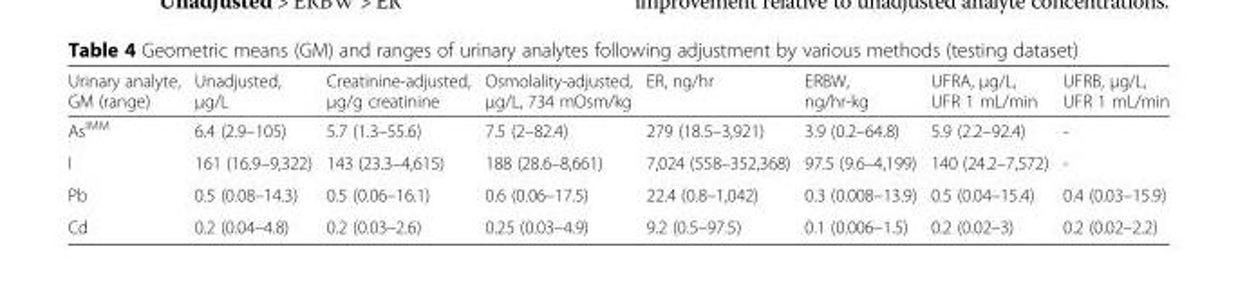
<table><thead><tr><td>Urinary analyte, GM (range)</td><td>Unadjusted, μg/L</td><td>Creatinine-adjusted, μg/g creatinine</td><td>Osmolality-adjusted, μg/L, 734 mOsm/kg</td><td>ER, ng/hr</td><td>ERBW, ng/hr-kg</td><td>UFRA, μg/L, UFR 1 mL/min</td><td>UFRB, μg/L, UFR 1 mL/min</td></tr></thead><tbody><tr><td>As<sup>IMM</sup></td><td>6.4 (2.9–105)</td><td>5.7 (1.3–55.6)</td><td>7.5 (2–82.4)</td><td>279 (18.5–3,921)</td><td>3.9 (0.2–64.8)</td><td>5.9 (2.2–92.4)</td><td>-</td></tr><tr><td>I</td><td>161 (16.9–9,322)</td><td>143 (23.3–4,615)</td><td>188 (28.6–8,661)</td><td>7,024 (558–352,368)</td><td>97.5 (9.6–4,199)</td><td>140 (24.2–7,572)</td><td>-</td></tr><tr><td>Pb</td><td>0.5 (0.08–14.3)</td><td>0.5 (0.06–16.1)</td><td>0.6 (0.06–17.5)</td><td>22.4 (0.8–1,042)</td><td>0.3 (0.008–13.9)</td><td>0.5 (0.04–15.4)</td><td>0.4 (0.03–15.9)</td></tr><tr><td>Cd</td><td>0.2 (0.04–4.8)</td><td>0.2 (0.03–2.6)</td><td>0.25 (0.03–4.9)</td><td>9.2 (0.5–97.5)</td><td>0.1 (0.006–1.5)</td><td>0.2 (0.02–3)</td><td>0.2 (0.02–2.2)</td></tr></tbody></table>